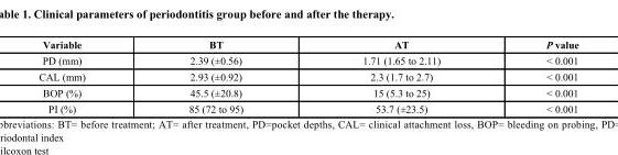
<table><thead><tr><td>Variable</td><td>BT</td><td>AT</td><td>P value</td></tr></thead><tbody><tr><td>PD (mm)</td><td>2.39 (±0.56)</td><td>1.71 (1.65 to 2.11)</td><td>&lt; 0.001</td></tr><tr><td>CAL (mm)</td><td>2.93 (±0.92)</td><td>2.3 (1.7 to 2.7)</td><td>&lt; 0.001</td></tr><tr><td>BOP (%)</td><td>45.5 (±20.8)</td><td>15 (5.3 to 25)</td><td>&lt; 0.001</td></tr><tr><td>PI (%)</td><td>85 (72 to 95)</td><td>53.7 (±23.5)</td><td>&lt; 0.001</td></tr></tbody></table>